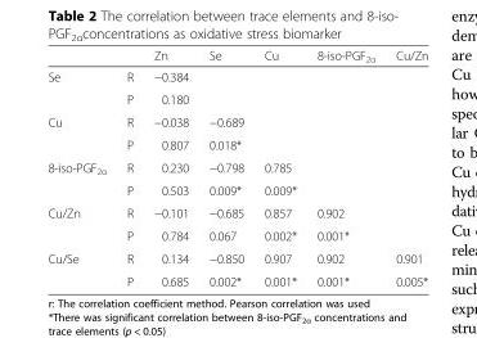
<table><thead><tr><td></td><td></td><td>Zn</td><td>Se</td><td>Cu</td><td>8-iso-PGF<sub>2α</sub></td><td>Cu/Zn</td></tr></thead><tbody><tr><td rowspan="2">Se</td><td>R</td><td>−0.384</td><td></td><td></td><td></td><td></td></tr><tr><td>P</td><td>0.180</td><td></td><td></td><td></td><td></td></tr><tr><td rowspan="2">Cu</td><td>R</td><td>−0.038</td><td>−0.689</td><td></td><td></td><td></td></tr><tr><td>P</td><td>0.807</td><td>0.018*</td><td></td><td></td><td></td></tr><tr><td rowspan="2">8-iso-PGF<sub>2α</sub></td><td>R</td><td>0.230</td><td>−0.798</td><td>0.785</td><td></td><td></td></tr><tr><td>P</td><td>0.503</td><td>0.009*</td><td>0.009*</td><td></td><td></td></tr><tr><td rowspan="2">Cu/Zn</td><td>R</td><td>−0.101</td><td>−0.685</td><td>0.857</td><td>0.902</td><td></td></tr><tr><td>P</td><td>0.784</td><td>0.067</td><td>0.002*</td><td>0.001*</td><td></td></tr><tr><td rowspan="2">Cu/Se</td><td>R</td><td>0.134</td><td>−0.850</td><td>0.907</td><td>0.902</td><td>0.901</td></tr><tr><td>P</td><td>0.685</td><td>0.002*</td><td>0.001*</td><td>0.001*</td><td>0.005*</td></tr></tbody></table>